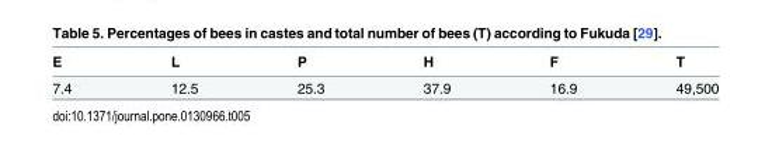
<table><thead><tr><td>E</td><td>L</td><td>P</td><td>H</td><td>F</td><td>T</td></tr></thead><tbody><tr><td>7.4</td><td>12.5</td><td>25.3</td><td>37.9</td><td>16.9</td><td>49,500</td></tr></tbody></table>